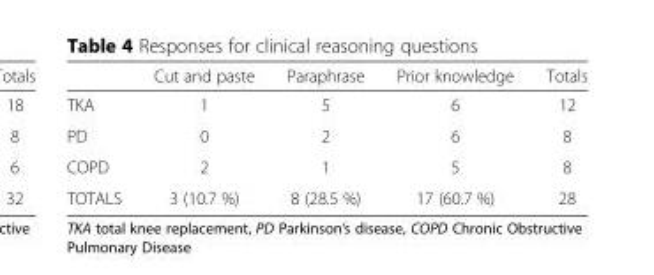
<table><thead><tr><td></td><td>Cut and paste</td><td>Paraphrase</td><td>Prior knowledge</td><td>Totals</td></tr></thead><tbody><tr><td>TKA</td><td>1</td><td>5</td><td>6</td><td>12</td></tr><tr><td>PD</td><td>0</td><td>2</td><td>6</td><td>8</td></tr><tr><td>COPD</td><td>2</td><td>1</td><td>5</td><td>8</td></tr><tr><td>TOTALS</td><td>3 (10.7 %)</td><td>8 (28.5 %)</td><td>17 (60.7 %)</td><td>28</td></tr></tbody></table>